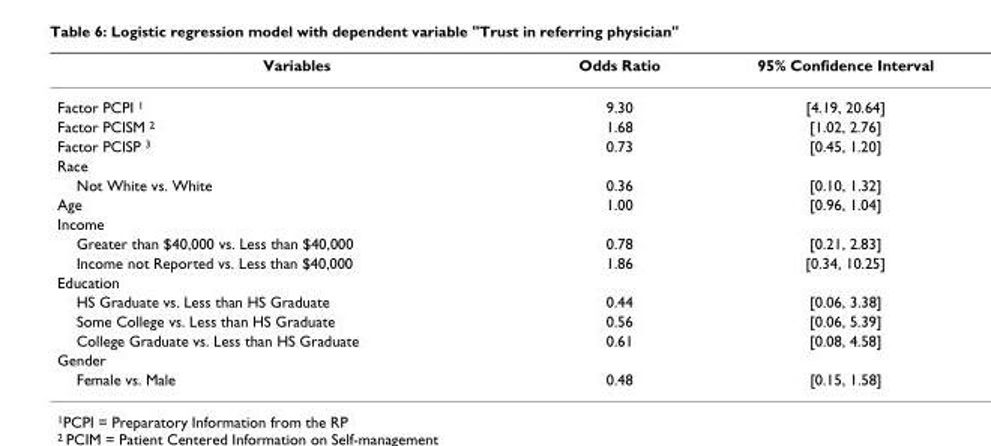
<table><thead><tr><td>Variables</td><td>Odds Ratio</td><td>95% Confidence Interval</td></tr></thead><tbody><tr><td>Factor PCPI <sup>1</sup></td><td>9.30</td><td>[4.19, 20.64]</td></tr><tr><td>Factor PCISM <sup>2</sup></td><td>1.68</td><td>[1.02, 2.76]</td></tr><tr><td>Factor PCISP <sup>3</sup></td><td>0.73</td><td>[0.45, 1.20]</td></tr><tr><td colspan="3">Race</td></tr><tr><td>Not White vs. White</td><td>0.36</td><td>[0.10, 1.32]</td></tr><tr><td>Age</td><td>1.00</td><td>[0.96, 1.04]</td></tr><tr><td colspan="3">Income</td></tr><tr><td>Greater than $40,000 vs. Less than $40,000</td><td>0.78</td><td>[0.21, 2.83]</td></tr><tr><td>Income not Reported vs. Less than $40,000</td><td>1.86</td><td>[0.34, 10.25]</td></tr><tr><td colspan="3">Education</td></tr><tr><td>HS Graduate vs. Less than HS Graduate</td><td>0.44</td><td>[0.06, 3.38]</td></tr><tr><td>Some College vs. Less than HS Graduate</td><td>0.56</td><td>[0.06, 5.39]</td></tr><tr><td>College Graduate vs. Less than HS Graduate</td><td>0.61</td><td>[0.08, 4.58]</td></tr><tr><td colspan="3">Gender</td></tr><tr><td>Female vs. Male</td><td>0.48</td><td>[0.15, 1.58]</td></tr></tbody></table>